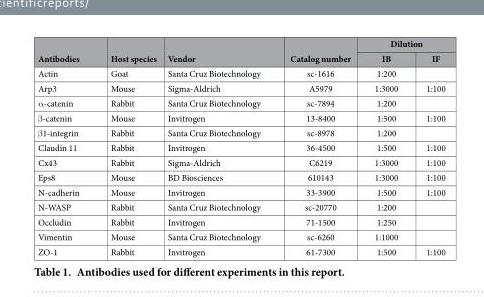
<table><thead><tr><td rowspan="2">Antibodies</td><td rowspan="2">Host species</td><td rowspan="2">Vendor</td><td rowspan="2">Catalog number</td><td colspan="2">Dilution</td></tr><tr><td>IB</td><td>IF</td></tr></thead><tbody><tr><td>Actin</td><td>Goat</td><td>Santa Cruz Biotechnology</td><td>sc-1616</td><td>1:200</td><td></td></tr><tr><td>Arp3</td><td>Mouse</td><td>Sigma-Aldrich</td><td>A5979</td><td>1:3000</td><td>1:100</td></tr><tr><td>α -catenin</td><td>Rabbit</td><td>Santa Cruz Biotechnology</td><td>sc-7894</td><td>1:200</td><td></td></tr><tr><td>β -catenin</td><td>Mouse</td><td>Invitrogen</td><td>13-8400</td><td>1:500</td><td>1:100</td></tr><tr><td>β 1-integrin</td><td>Rabbit</td><td>Santa Cruz Biotechnology</td><td>sc-8978</td><td>1:200</td><td></td></tr><tr><td>Claudin 11</td><td>Rabbit</td><td>Invitrogen</td><td>36-4500</td><td>1:500</td><td>1:100</td></tr><tr><td>Cx43</td><td>Rabbit</td><td>Sigma-Aldrich</td><td>C6219</td><td>1:3000</td><td>1:100</td></tr><tr><td>Eps8</td><td>Mouse</td><td>BD Biosciences</td><td>610143</td><td>1:3000</td><td>1:100</td></tr><tr><td>N-cadherin</td><td>Mouse</td><td>Invitrogen</td><td>33-3900</td><td>1:500</td><td>1:100</td></tr><tr><td>N-WASP</td><td>Rabbit</td><td>Santa Cruz Biotechnology</td><td>sc-20770</td><td>1:200</td><td></td></tr><tr><td>Occludin</td><td>Rabbit</td><td>Invitrogen</td><td>71-1500</td><td>1:250</td><td></td></tr><tr><td>Vimentin</td><td>Mouse</td><td>Santa Cruz Biotechnology</td><td>sc-6260</td><td>1:1000</td><td></td></tr><tr><td>ZO-1</td><td>Rabbit</td><td>Invitrogen</td><td>61-7300</td><td>1:500</td><td>1:100</td></tr></tbody></table>